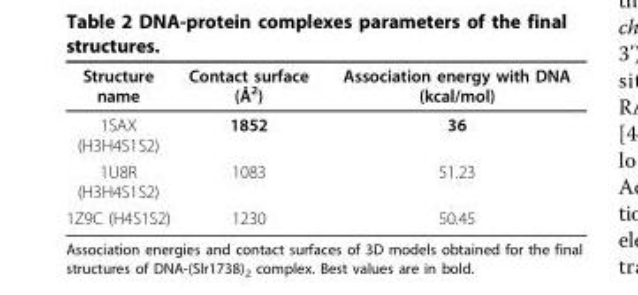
<table><thead><tr><td>Structure name</td><td>Contact surface (Å<sup>2</sup>)</td><td>Association energy with DNA (kcal/mol)</td></tr></thead><tbody><tr><td>1SAX (H3H4S1S2)</td><td>1852</td><td>36</td></tr><tr><td>1U8R (H3H4S1S2)</td><td>1083</td><td>51.23</td></tr><tr><td>1Z9C (H4S1S2)</td><td>1230</td><td>50.45</td></tr></tbody></table>